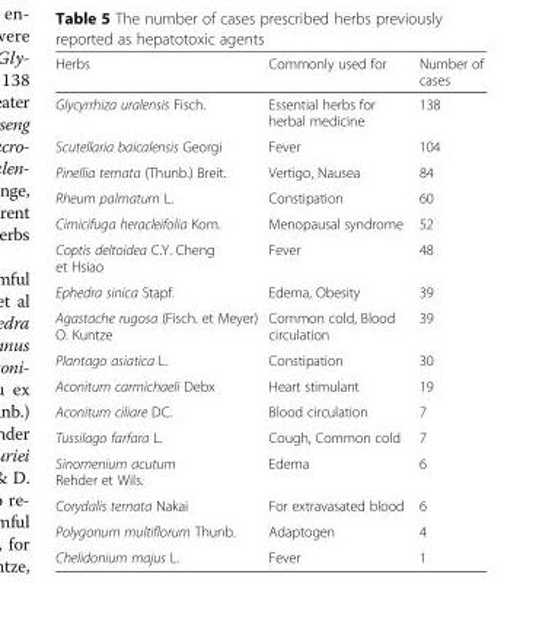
<table><thead><tr><td>Herbs</td><td>Commonly used for</td><td>Number of cases</td></tr></thead><tbody><tr><td>Glycyrrhiza uralensis Fisch.</td><td>Essential herbs for herbal medicine</td><td>138</td></tr><tr><td>Scutellaria baicalensis Georgi</td><td>Fever</td><td>104</td></tr><tr><td>Pinellia ternata (Thunb.) Breit.</td><td>Vertigo, Nausea</td><td>84</td></tr><tr><td>Rheum palmatum L.</td><td>Constipation</td><td>60</td></tr><tr><td>Cimicifuga heracleifolia Kom.</td><td>Menopausal syndrome</td><td>52</td></tr><tr><td>Coptis deltoidea C.Y. Cheng et Hsiao</td><td>Fever</td><td>48</td></tr><tr><td>Ephedra sinica Stapf.</td><td>Edema, Obesity</td><td>39</td></tr><tr><td>Agastache rugosa (Fisch. et Meyer) O. Kuntze</td><td>Common cold, Blood circulation</td><td>39</td></tr><tr><td>Plantago asiatica L.</td><td>Constipation</td><td>30</td></tr><tr><td>Aconitum carmichaeli Debx</td><td>Heart stimulant</td><td>19</td></tr><tr><td>Aconitum ciliare DC.</td><td>Blood circulation</td><td>7</td></tr><tr><td>Tussilago farfara L.</td><td>Cough, Common cold</td><td>7</td></tr><tr><td>Sinomenium acutum Rehder et Wils.</td><td>Edema</td><td>6</td></tr><tr><td>Corydalis ternata Nakai</td><td>For extravasated blood</td><td>6</td></tr><tr><td>Polygonum multiflorum Thunb.</td><td>Adaptogen</td><td>4</td></tr><tr><td>Chelidonium majus L.</td><td>Fever</td><td>1</td></tr></tbody></table>